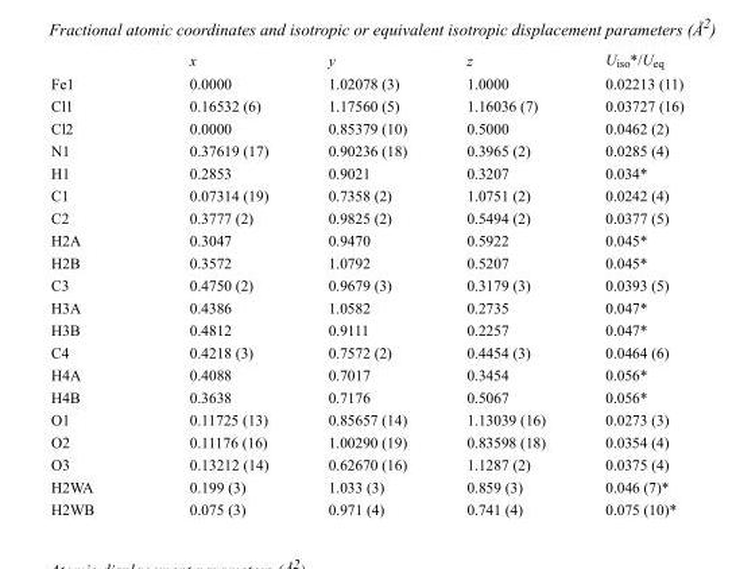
<table><thead><tr><td></td><td>x</td><td>y</td><td>z</td><td>U<sub>iso</sub>*/U<sub>eq</sub></td></tr></thead><tbody><tr><td>Fe1</td><td>0.0000</td><td>1.02078 (3)</td><td>1.0000</td><td>0.02213 (11)</td></tr><tr><td>Cl1</td><td>0.16532 (6)</td><td>1.17560 (5)</td><td>1.16036 (7)</td><td>0.03727 (16)</td></tr><tr><td>Cl2</td><td>0.0000</td><td>0.85379 (10)</td><td>0.5000</td><td>0.0462 (2)</td></tr><tr><td>N1</td><td>0.37619 (17)</td><td>0.90236 (18)</td><td>0.3965 (2)</td><td>0.0285 (4)</td></tr><tr><td>H1</td><td>0.2853</td><td>0.9021</td><td>0.3207</td><td>0.034*</td></tr><tr><td>C1</td><td>0.07314 (19)</td><td>0.7358 (2)</td><td>1.0751 (2)</td><td>0.0242 (4)</td></tr><tr><td>C2</td><td>0.3777 (2)</td><td>0.9825 (2)</td><td>0.5494 (2)</td><td>0.0377 (5)</td></tr><tr><td>H2A</td><td>0.3047</td><td>0.9470</td><td>0.5922</td><td>0.045*</td></tr><tr><td>H2B</td><td>0.3572</td><td>1.0792</td><td>0.5207</td><td>0.045*</td></tr><tr><td>C3</td><td>0.4750 (2)</td><td>0.9679 (3)</td><td>0.3179 (3)</td><td>0.0393 (5)</td></tr><tr><td>H3A</td><td>0.4386</td><td>1.0582</td><td>0.2735</td><td>0.047*</td></tr><tr><td>H3B</td><td>0.4812</td><td>0.9111</td><td>0.2257</td><td>0.047*</td></tr><tr><td>C4</td><td>0.4218 (3)</td><td>0.7572 (2)</td><td>0.4454 (3)</td><td>0.0464 (6)</td></tr><tr><td>H4A</td><td>0.4088</td><td>0.7017</td><td>0.3454</td><td>0.056*</td></tr><tr><td>H4B</td><td>0.3638</td><td>0.7176</td><td>0.5067</td><td>0.056*</td></tr><tr><td>O1</td><td>0.11725 (13)</td><td>0.85657 (14)</td><td>1.13039 (16)</td><td>0.0273 (3)</td></tr><tr><td>O2</td><td>0.11176 (16)</td><td>1.00290 (19)</td><td>0.83598 (18)</td><td>0.0354 (4)</td></tr><tr><td>O3</td><td>0.13212 (14)</td><td>0.62670 (16)</td><td>1.1287 (2)</td><td>0.0375 (4)</td></tr><tr><td>H2WA</td><td>0.199 (3)</td><td>1.033 (3)</td><td>0.859 (3)</td><td>0.046 (7)*</td></tr><tr><td>H2WB</td><td>0.075 (3)</td><td>0.971 (4)</td><td>0.741 (4)</td><td>0.075 (10)*</td></tr></tbody></table>